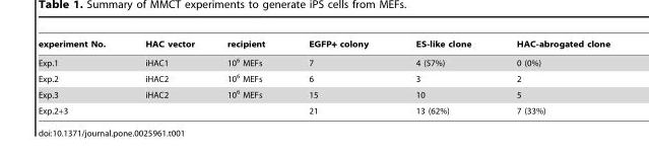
<table><thead><tr><td>experiment No.</td><td>HAC vector</td><td>recipient</td><td>EGFP+ colony</td><td>ES-like clone</td><td>HAC-abrogated clone</td></tr></thead><tbody><tr><td>Exp.1</td><td>iHAC1</td><td>10<sup>6</sup> MEFs</td><td>7</td><td>4 (57%)</td><td>0 (0%)</td></tr><tr><td>Exp.2</td><td>iHAC2</td><td>10<sup>6</sup> MEFs</td><td>6</td><td>3</td><td>2</td></tr><tr><td>Exp.3</td><td>iHAC2</td><td>10<sup>6</sup> MEFs</td><td>15</td><td>10</td><td>5</td></tr><tr><td>Exp.2+3</td><td></td><td></td><td>21</td><td>13 (62%)</td><td>7 (33%)</td></tr></tbody></table>